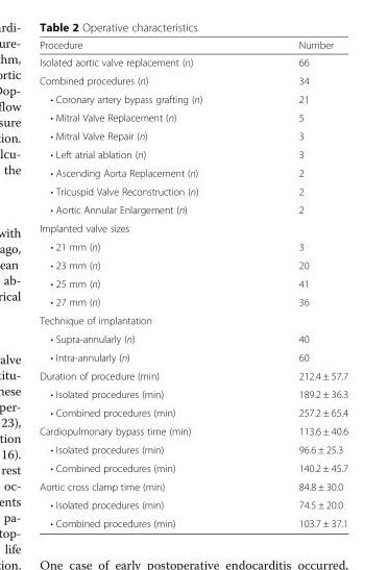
<table><thead><tr><td>Procedure</td><td>Number</td></tr></thead><tbody><tr><td>Isolated aortic valve replacement (n)</td><td>66</td></tr><tr><td>Combined procedures (n)</td><td>34</td></tr><tr><td>• Coronary artery bypass grafting (n)</td><td>21</td></tr><tr><td>• Mitral Valve Replacement (n)</td><td>5</td></tr><tr><td>• Mitral Valve Repair (n)</td><td>3</td></tr><tr><td>• Left atrial ablation (n)</td><td>3</td></tr><tr><td>• Ascending Aorta Replacement (n)</td><td>2</td></tr><tr><td>• Tricuspid Valve Reconstruction (n)</td><td>2</td></tr><tr><td>• Aortic Annular Enlargement (n)</td><td>2</td></tr><tr><td colspan="2">Implanted valve sizes</td></tr><tr><td>• 21 mm (n)</td><td>3</td></tr><tr><td>• 23 mm (n)</td><td>20</td></tr><tr><td>• 25 mm (n)</td><td>41</td></tr><tr><td>• 27 mm (n)</td><td>36</td></tr><tr><td colspan="2">Technique of implantation</td></tr><tr><td>• Supra-annularly (n)</td><td>40</td></tr><tr><td>• Intra-annularly (n)</td><td>60</td></tr><tr><td>Duration of procedure (min)</td><td>212.4 ± 57.7</td></tr><tr><td>• Isolated procedures (min)</td><td>189.2 ± 36.3</td></tr><tr><td>• Combined procedures (min)</td><td>257.2 ± 65.4</td></tr><tr><td>Cardiopulmonary bypass time (min)</td><td>113.6 ± 40.6</td></tr><tr><td>• Isolated procedures (min)</td><td>96.6 ± 25.3</td></tr><tr><td>• Combined procedures (min)</td><td>140.2 ± 45.7</td></tr><tr><td>Aortic cross clamp time (min)</td><td>84.8 ± 30.0</td></tr><tr><td>• Isolated procedures (min)</td><td>74.5 ± 20.0</td></tr><tr><td>• Combined procedures (min)</td><td>103.7 ± 37.1</td></tr></tbody></table>